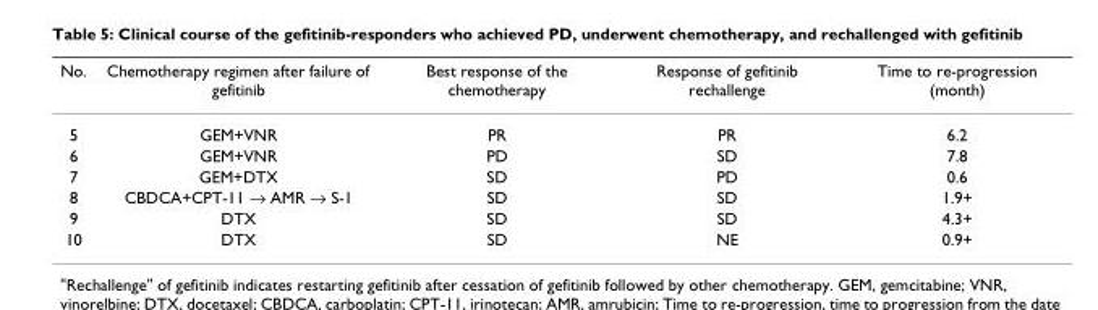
<table><thead><tr><td>No.</td><td>Chemotherapy regimen after failure of gefitinib</td><td>Best response of the chemotherapy</td><td>Response of gefitinib rechallenge</td><td>Time to re-progression (month)</td></tr></thead><tbody><tr><td>5</td><td>GEM+VNR</td><td>PR</td><td>PR</td><td>6.2</td></tr><tr><td>6</td><td>GEM+VNR</td><td>PD</td><td>SD</td><td>7.8</td></tr><tr><td>7</td><td>GEM+DTX</td><td>SD</td><td>PD</td><td>0.6</td></tr><tr><td>8</td><td>CBDCA+CPT-11 → AMR → S-1</td><td>SD</td><td>SD</td><td>1.9+</td></tr><tr><td>9</td><td>DTX</td><td>SD</td><td>SD</td><td>4.3+</td></tr><tr><td>10</td><td>DTX</td><td>SD</td><td>NE</td><td>0.9+</td></tr></tbody></table>